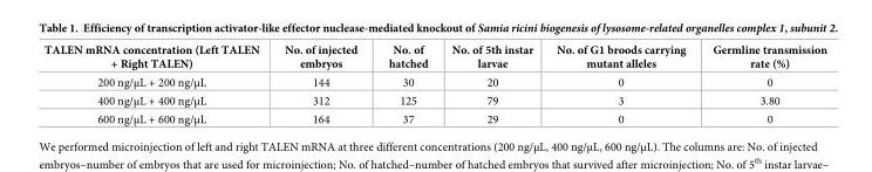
<table><thead><tr><td>TALEN mRNA concentration (Left TALEN + Right TALEN)</td><td>No. of injected embryos</td><td>No. of hatched</td><td>No. of 5th instar larvae</td><td>No. of G1 broods carrying mutant alleles</td><td>Germline transmission rate (%)</td></tr></thead><tbody><tr><td>200 ng/μL + 200 ng/μL</td><td>144</td><td>30</td><td>20</td><td>0</td><td>0</td></tr><tr><td>400 ng/μL + 400 ng/μL</td><td>312</td><td>125</td><td>79</td><td>3</td><td>3.80</td></tr><tr><td>600 ng/μL + 600 ng/μL</td><td>164</td><td>37</td><td>29</td><td>0</td><td>0</td></tr></tbody></table>